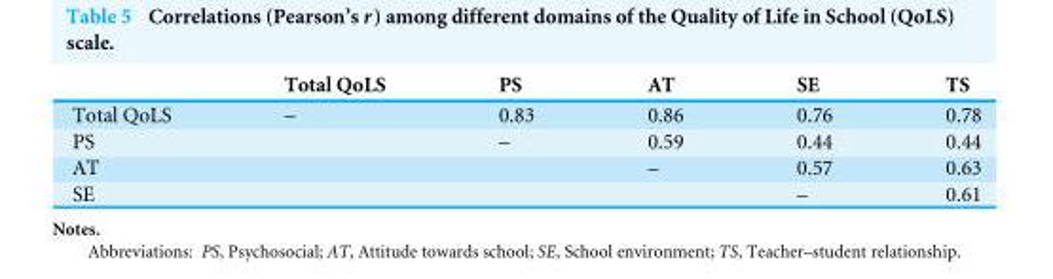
<table><thead><tr><td></td><td>Total QoLS</td><td>PS</td><td>AT</td><td>SE</td><td>TS</td></tr></thead><tbody><tr><td>Total QoLS</td><td>–</td><td>0.83</td><td>0.86</td><td>0.76</td><td>0.78</td></tr><tr><td>PS</td><td></td><td>–</td><td>0.59</td><td>0.44</td><td>0.44</td></tr><tr><td>AT</td><td></td><td></td><td>–</td><td>0.57</td><td>0.63</td></tr><tr><td>SE</td><td></td><td></td><td></td><td>–</td><td>0.61</td></tr></tbody></table>